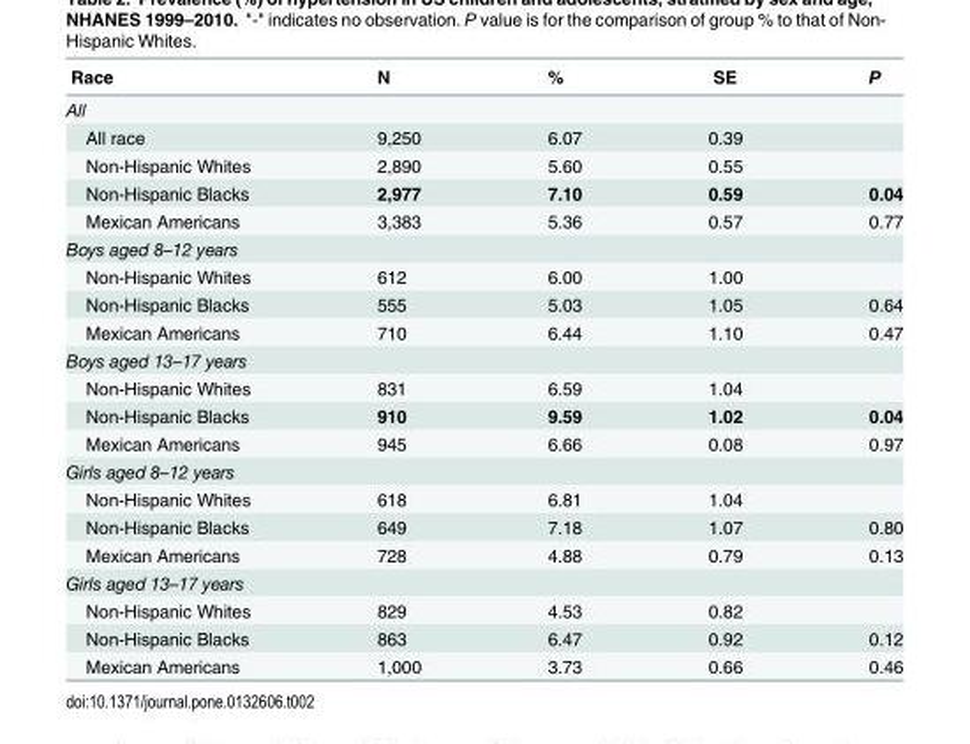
<table><thead><tr><td>Race</td><td>N</td><td>%</td><td>SE</td><td>P</td></tr></thead><tbody><tr><td colspan="5">All</td></tr><tr><td>All race</td><td>9,250</td><td>6.07</td><td>0.39</td><td></td></tr><tr><td>Non-Hispanic Whites</td><td>2,890</td><td>5.60</td><td>0.55</td><td></td></tr><tr><td>Non-Hispanic Blacks</td><td>2,977</td><td>7.10</td><td>0.59</td><td>0.04</td></tr><tr><td>Mexican Americans</td><td>3,383</td><td>5.36</td><td>0.57</td><td>0.77</td></tr><tr><td colspan="5">Boys aged 8–12 years</td></tr><tr><td>Non-Hispanic Whites</td><td>612</td><td>6.00</td><td>1.00</td><td></td></tr><tr><td>Non-Hispanic Blacks</td><td>555</td><td>5.03</td><td>1.05</td><td>0.64</td></tr><tr><td>Mexican Americans</td><td>710</td><td>6.44</td><td>1.10</td><td>0.47</td></tr><tr><td colspan="5">Boys aged 13–17 years</td></tr><tr><td>Non-Hispanic Whites</td><td>831</td><td>6.59</td><td>1.04</td><td></td></tr><tr><td>Non-Hispanic Blacks</td><td>910</td><td>9.59</td><td>1.02</td><td>0.04</td></tr><tr><td>Mexican Americans</td><td>945</td><td>6.66</td><td>0.08</td><td>0.97</td></tr><tr><td colspan="5">Girls aged 8–12 years</td></tr><tr><td>Non-Hispanic Whites</td><td>618</td><td>6.81</td><td>1.04</td><td></td></tr><tr><td>Non-Hispanic Blacks</td><td>649</td><td>7.18</td><td>1.07</td><td>0.80</td></tr><tr><td>Mexican Americans</td><td>728</td><td>4.88</td><td>0.79</td><td>0.13</td></tr><tr><td colspan="5">Girls aged 13–17 years</td></tr><tr><td>Non-Hispanic Whites</td><td>829</td><td>4.53</td><td>0.82</td><td></td></tr><tr><td>Non-Hispanic Blacks</td><td>863</td><td>6.47</td><td>0.92</td><td>0.12</td></tr><tr><td>Mexican Americans</td><td>1,000</td><td>3.73</td><td>0.66</td><td>0.46</td></tr></tbody></table>